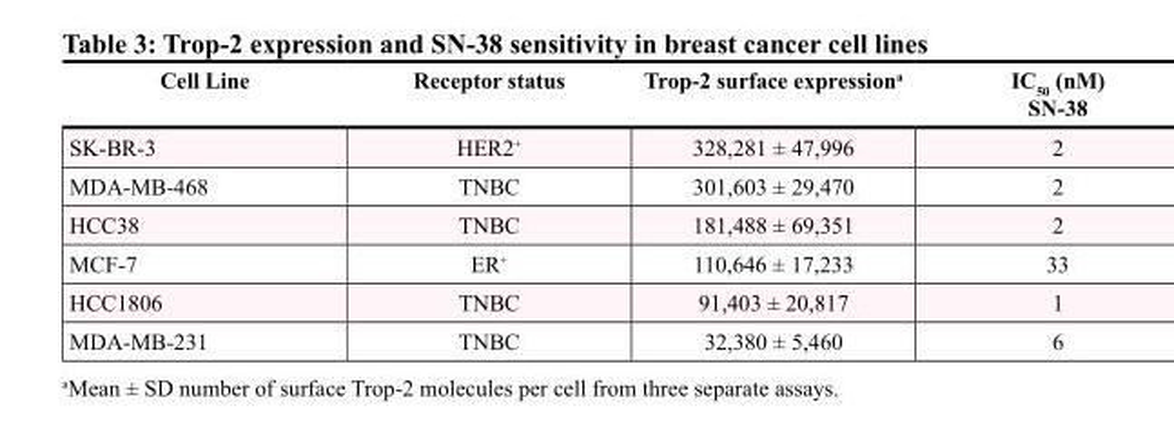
<table><thead><tr><td>Cell Line</td><td>Receptor status</td><td>Trop-2 surface expression<sup>a</sup></td><td>IC<sub>50</sub> (nM) SN-38</td></tr></thead><tbody><tr><td>SK-BR-3</td><td>HER2<sup>+</sup></td><td>328,281 ± 47,996</td><td>2</td></tr><tr><td>MDA-MB-468</td><td>TNBC</td><td>301,603 ± 29,470</td><td>2</td></tr><tr><td>HCC38</td><td>TNBC</td><td>181,488 ± 69,351</td><td>2</td></tr><tr><td>MCF-7</td><td>ER<sup>+</sup></td><td>110,646 ± 17,233</td><td>33</td></tr><tr><td>HCC1806</td><td>TNBC</td><td>91,403 ± 20,817</td><td>1</td></tr><tr><td>MDA-MB-231</td><td>TNBC</td><td>32,380 ± 5,460</td><td>6</td></tr></tbody></table>